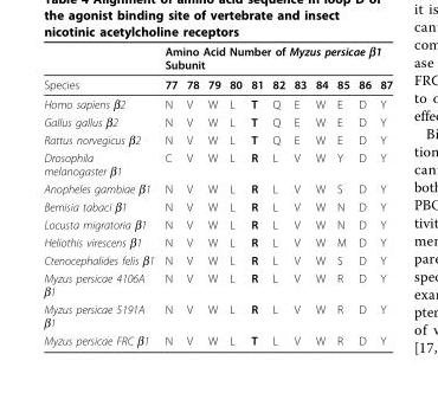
<table><thead><tr><td rowspan="2">Species</td><td colspan="11">Amino Acid Number of Myzus persicae β1 Subunit</td></tr><tr><td>77</td><td>78</td><td>79</td><td>80</td><td>81</td><td>82</td><td>83</td><td>84</td><td>85</td><td>86</td><td>87</td></tr></thead><tbody><tr><td>Homo sapiens β2</td><td>N</td><td>V</td><td>W</td><td>L</td><td>T</td><td>Q</td><td>E</td><td>W</td><td>E</td><td>D</td><td>Y</td></tr><tr><td>Gallus gallus β2</td><td>N</td><td>V</td><td>W</td><td>L</td><td>T</td><td>Q</td><td>E</td><td>W</td><td>E</td><td>D</td><td>Y</td></tr><tr><td>Rattus norvegicus β2</td><td>N</td><td>V</td><td>W</td><td>L</td><td>T</td><td>Q</td><td>E</td><td>W</td><td>E</td><td>D</td><td>Y</td></tr><tr><td>Drosophila melanogaster β1</td><td>C</td><td>V</td><td>W</td><td>L</td><td>R</td><td>L</td><td>V</td><td>W</td><td>Y</td><td>D</td><td>Y</td></tr><tr><td>Anopheles gambiae β1</td><td>N</td><td>V</td><td>W</td><td>L</td><td>R</td><td>L</td><td>V</td><td>W</td><td>S</td><td>D</td><td>Y</td></tr><tr><td>Bemisia tabaci β1</td><td>N</td><td>V</td><td>W</td><td>L</td><td>R</td><td>L</td><td>V</td><td>W</td><td>N</td><td>D</td><td>Y</td></tr><tr><td>Locusta migratoria β1</td><td>N</td><td>V</td><td>W</td><td>L</td><td>R</td><td>L</td><td>V</td><td>W</td><td>N</td><td>D</td><td>Y</td></tr><tr><td>Heliothis virescens β1</td><td>N</td><td>V</td><td>W</td><td>L</td><td>R</td><td>L</td><td>V</td><td>W</td><td>M</td><td>D</td><td>Y</td></tr><tr><td>Ctenocephalides felis β1</td><td>N</td><td>V</td><td>W</td><td>L</td><td>R</td><td>L</td><td>V</td><td>W</td><td>S</td><td>D</td><td>Y</td></tr><tr><td>Myzus persicae 4106A β1</td><td>N</td><td>V</td><td>W</td><td>L</td><td>R</td><td>L</td><td>V</td><td>W</td><td>R</td><td>D</td><td>Y</td></tr><tr><td>Myzus persicae 5191A β1</td><td>N</td><td>V</td><td>W</td><td>L</td><td>R</td><td>L</td><td>V</td><td>W</td><td>R</td><td>D</td><td>Y</td></tr><tr><td>Myzus persicae FRC β1</td><td>N</td><td>V</td><td>W</td><td>L</td><td>T</td><td>L</td><td>V</td><td>W</td><td>R</td><td>D</td><td>Y</td></tr></tbody></table>